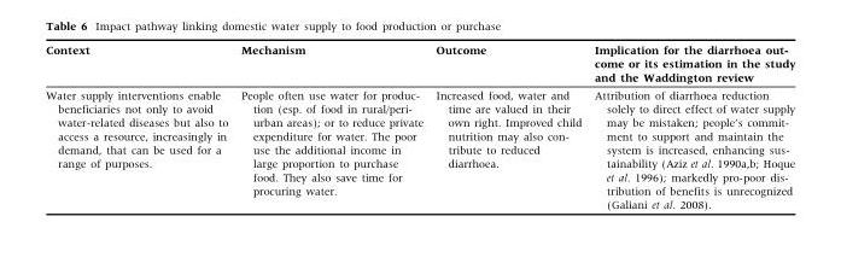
<table><thead><tr><td>Context</td><td>Mechanism</td><td>Outcome</td><td>Implication for the diarrhoea out- come or its estimation in the study and the Waddington review</td></tr></thead><tbody><tr><td>Water supply interventions enable beneficiaries not only to avoid water-related diseases but also to access a resource, increasingly in demand, that can be used for a range of purposes.</td><td>People often use water for produc- tion (esp. of food in rural/peri- urban areas); or to reduce private expenditure for water. The poor use the additional income in large proportion to purchase food. They also save time for procuring water.</td><td>Increased food, water and time are valued in their own right. Improved child nutrition may also con- tribute to reduced diarrhoea.</td><td>Attribution of diarrhoea reduction solely to direct effect of water supply may be mistaken; people’s commit- ment to support and maintain the system is increased, enhancing sus- tainability (Aziz et al. 1990a,b; Hoque et al. 1996); markedly pro-poor dis- tribution of benefits is unrecognized (Galiani et al. 2008).</td></tr></tbody></table>